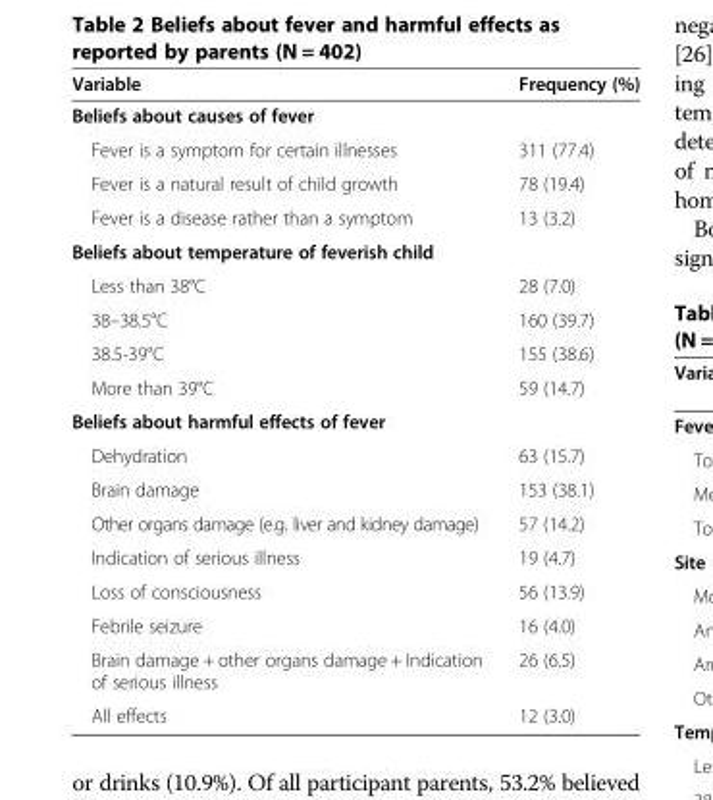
<table><thead><tr><td>Variable</td><td>Frequency (%)</td></tr></thead><tbody><tr><td colspan="2">Beliefs about causes of fever</td></tr><tr><td>Fever is a symptom for certain illnesses</td><td>311 (77.4)</td></tr><tr><td>Fever is a natural result of child growth</td><td>78 (19.4)</td></tr><tr><td>Fever is a disease rather than a symptom</td><td>13 (3.2)</td></tr><tr><td colspan="2">Beliefs about temperature of feverish child</td></tr><tr><td>Less than 38°C</td><td>28 (7.0)</td></tr><tr><td>38–38.5°C</td><td>160 (39.7)</td></tr><tr><td>38.5-39°C</td><td>155 (38.6)</td></tr><tr><td>More than 39°C</td><td>59 (14.7)</td></tr><tr><td colspan="2">Beliefs about harmful effects of fever</td></tr><tr><td>Dehydration</td><td>63 (15.7)</td></tr><tr><td>Brain damage</td><td>153 (38.1)</td></tr><tr><td>Other organs damage (e.g. liver and kidney damage)</td><td>57 (14.2)</td></tr><tr><td>Indication of serious illness</td><td>19 (4.7)</td></tr><tr><td>Loss of consciousness</td><td>56 (13.9)</td></tr><tr><td>Febrile seizure</td><td>16 (4.0)</td></tr><tr><td>Brain damage + other organs damage + Indication of serious illness</td><td>26 (6.5)</td></tr><tr><td>All effects</td><td>12 (3.0)</td></tr></tbody></table>